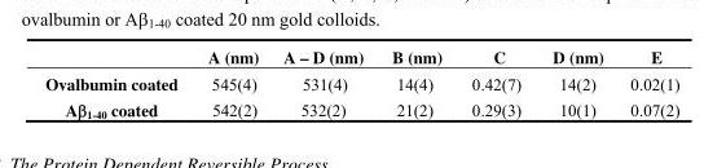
<table><thead><tr><td></td><td>A (nm)</td><td>A – D (nm)</td><td>B (nm)</td><td>C</td><td>D (nm)</td><td>E</td></tr></thead><tbody><tr><td>Ovalbumin coated</td><td>545(4)</td><td>531(4)</td><td>14(4)</td><td>0.42(7)</td><td>14(2)</td><td>0.02(1)</td></tr><tr><td>Aβ<sub>1-40</sub> coated</td><td>542(2)</td><td>532(2)</td><td>21(2)</td><td>0.29(3)</td><td>10(1)</td><td>0.07(2)</td></tr></tbody></table>